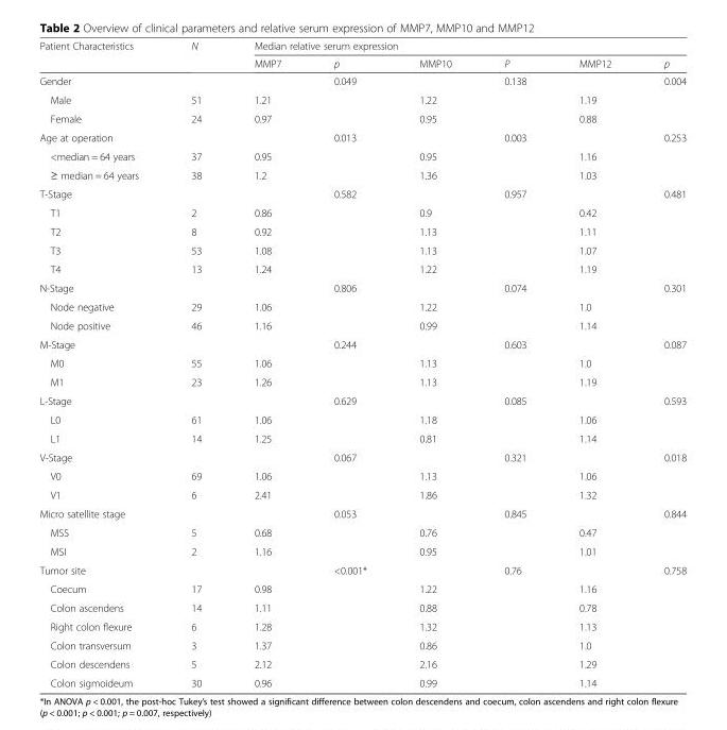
<table><thead><tr><td rowspan="2">Patient Characteristics</td><td rowspan="2">N</td><td colspan="6">Median relative serum expression</td></tr><tr><td>MMP7</td><td>p</td><td>MMP10</td><td>P</td><td>MMP12</td><td>p</td></tr></thead><tbody><tr><td>Gender</td><td></td><td></td><td>0.049</td><td></td><td>0.138</td><td></td><td>0.004</td></tr><tr><td>Male</td><td>51</td><td>1.21</td><td></td><td>1.22</td><td></td><td>1.19</td><td></td></tr><tr><td>Female</td><td>24</td><td>0.97</td><td></td><td>0.95</td><td></td><td>0.88</td><td></td></tr><tr><td>Age at operation</td><td></td><td></td><td>0.013</td><td></td><td>0.003</td><td></td><td>0.253</td></tr><tr><td>&lt;median = 64 years</td><td>37</td><td>0.95</td><td></td><td>0.95</td><td></td><td>1.16</td><td></td></tr><tr><td>≥ median = 64 years</td><td>38</td><td>1.2</td><td></td><td>1.36</td><td></td><td>1.03</td><td></td></tr><tr><td>T-Stage</td><td></td><td></td><td>0.582</td><td></td><td>0.957</td><td></td><td>0.481</td></tr><tr><td>T1</td><td>2</td><td>0.86</td><td></td><td>0.9</td><td></td><td>0.42</td><td></td></tr><tr><td>T2</td><td>8</td><td>0.92</td><td></td><td>1.13</td><td></td><td>1.11</td><td></td></tr><tr><td>T3</td><td>53</td><td>1.08</td><td></td><td>1.13</td><td></td><td>1.07</td><td></td></tr><tr><td>T4</td><td>13</td><td>1.24</td><td></td><td>1.22</td><td></td><td>1.19</td><td></td></tr><tr><td>N-Stage</td><td></td><td></td><td>0.806</td><td></td><td>0.074</td><td></td><td>0.301</td></tr><tr><td>Node negative</td><td>29</td><td>1.06</td><td></td><td>1.22</td><td></td><td>1.0</td><td></td></tr><tr><td>Node positive</td><td>46</td><td>1.16</td><td></td><td>0.99</td><td></td><td>1.14</td><td></td></tr><tr><td>M-Stage</td><td></td><td></td><td>0.244</td><td></td><td>0.603</td><td></td><td>0.087</td></tr><tr><td>M0</td><td>55</td><td>1.06</td><td></td><td>1.13</td><td></td><td>1.0</td><td></td></tr><tr><td>M1</td><td>23</td><td>1.26</td><td></td><td>1.13</td><td></td><td>1.19</td><td></td></tr><tr><td>L-Stage</td><td></td><td></td><td>0.629</td><td></td><td>0.085</td><td></td><td>0.593</td></tr><tr><td>L0</td><td>61</td><td>1.06</td><td></td><td>1.18</td><td></td><td>1.06</td><td></td></tr><tr><td>L1</td><td>14</td><td>1.25</td><td></td><td>0.81</td><td></td><td>1.14</td><td></td></tr><tr><td>V-Stage</td><td></td><td></td><td>0.067</td><td></td><td>0.321</td><td></td><td>0.018</td></tr><tr><td>V0</td><td>69</td><td>1.06</td><td></td><td>1.13</td><td></td><td>1.06</td><td></td></tr><tr><td>V1</td><td>6</td><td>2.41</td><td></td><td>1.86</td><td></td><td>1.32</td><td></td></tr><tr><td>Micro satellite stage</td><td></td><td></td><td>0.053</td><td></td><td>0.845</td><td></td><td>0.844</td></tr><tr><td>MSS</td><td>5</td><td>0.68</td><td></td><td>0.76</td><td></td><td>0.47</td><td></td></tr><tr><td>MSI</td><td>2</td><td>1.16</td><td></td><td>0.95</td><td></td><td>1.01</td><td></td></tr><tr><td>Tumor site</td><td></td><td></td><td>&lt;0.001*</td><td></td><td>0.76</td><td></td><td>0.758</td></tr><tr><td>Coecum</td><td>17</td><td>0.98</td><td></td><td>1.22</td><td></td><td>1.16</td><td></td></tr><tr><td>Colon ascendens</td><td>14</td><td>1.11</td><td></td><td>0.88</td><td></td><td>0.78</td><td></td></tr><tr><td>Right colon flexure</td><td>6</td><td>1.28</td><td></td><td>1.32</td><td></td><td>1.13</td><td></td></tr><tr><td>Colon transversum</td><td>3</td><td>1.37</td><td></td><td>0.86</td><td></td><td>1.0</td><td></td></tr><tr><td>Colon descendens</td><td>5</td><td>2.12</td><td></td><td>2.16</td><td></td><td>1.29</td><td></td></tr><tr><td>Colon sigmoideum</td><td>30</td><td>0.96</td><td></td><td>0.99</td><td></td><td>1.14</td><td></td></tr></tbody></table>